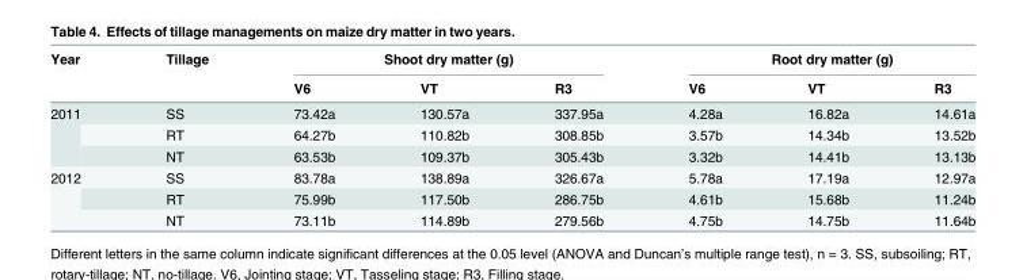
<table><thead><tr><td rowspan="2">Year</td><td rowspan="2">Tillage</td><td colspan="3">Shoot dry matter (g)</td><td colspan="3">Root dry matter (g)</td></tr><tr><td>V6</td><td>VT</td><td>R3</td><td>V6</td><td>VT</td><td>R3</td></tr></thead><tbody><tr><td rowspan="3">2011</td><td>SS</td><td>73.42a</td><td>130.57a</td><td>337.95a</td><td>4.28a</td><td>16.82a</td><td>14.61a</td></tr><tr><td>RT</td><td>64.27b</td><td>110.82b</td><td>308.85b</td><td>3.57b</td><td>14.34b</td><td>13.52b</td></tr><tr><td>NT</td><td>63.53b</td><td>109.37b</td><td>305.43b</td><td>3.32b</td><td>14.41b</td><td>13.13b</td></tr><tr><td rowspan="3">2012</td><td>SS</td><td>83.78a</td><td>138.89a</td><td>326.67a</td><td>5.78a</td><td>17.19a</td><td>12.97a</td></tr><tr><td>RT</td><td>75.99b</td><td>117.50b</td><td>286.75b</td><td>4.61b</td><td>15.68b</td><td>11.24b</td></tr><tr><td>NT</td><td>73.11b</td><td>114.89b</td><td>279.56b</td><td>4.75b</td><td>14.75b</td><td>11.64b</td></tr></tbody></table>